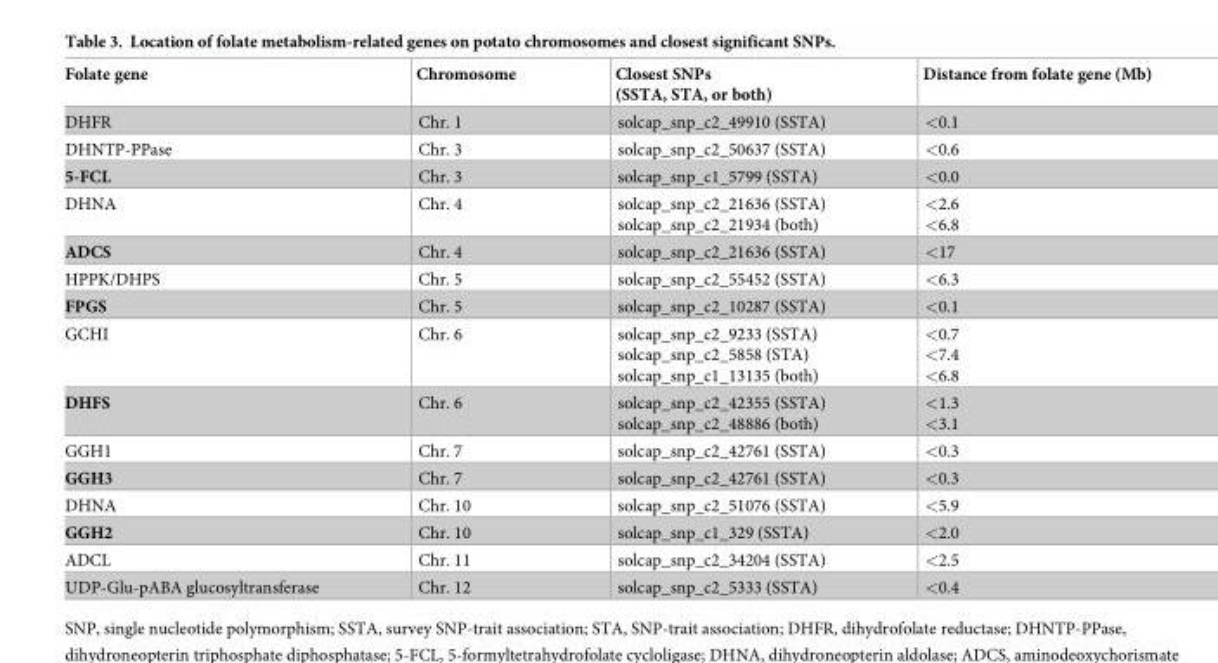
<table><thead><tr><td>Folate gene</td><td>Chromosome</td><td>Closest SNPs (SSTA, STA, or both)</td><td>Distance from folate gene (Mb)</td></tr></thead><tbody><tr><td>DHFR</td><td>Chr. 1</td><td>solcap_snp_c2_49910 (SSTA)</td><td>&lt;0.1</td></tr><tr><td>DHNTP-PPase</td><td>Chr. 3</td><td>solcap_snp_c2_50637 (SSTA)</td><td>&lt;0.6</td></tr><tr><td>5-FCL</td><td>Chr. 3</td><td>solcap_snp_c1_5799 (SSTA)</td><td>&lt;0.0</td></tr><tr><td>DHNA</td><td>Chr. 4</td><td>solcap_snp_c2_21636 (SSTA) solcap_snp_c2_21934 (both)</td><td>&lt;2.6 &lt;6.8</td></tr><tr><td>ADCS</td><td>Chr. 4</td><td>solcap_snp_c2_21636 (SSTA)</td><td>&lt;17</td></tr><tr><td>HPPK/DHPS</td><td>Chr. 5</td><td>solcap_snp_c2_55452 (SSTA)</td><td>&lt;6.3</td></tr><tr><td>FPGS</td><td>Chr. 5</td><td>solcap_snp_c2_10287 (SSTA)</td><td>&lt;0.1</td></tr><tr><td>GCHI</td><td>Chr. 6</td><td>solcap_snp_c2_9233 (SSTA) solcap_snp_c2_5858 (STA) solcap_snp_c1_13135 (both)</td><td>&lt;0.7 &lt;7.4 &lt;6.8</td></tr><tr><td>DHFS</td><td>Chr. 6</td><td>solcap_snp_c2_42355 (SSTA) solcap_snp_c2_48886 (both)</td><td>&lt;1.3 &lt;3.1</td></tr><tr><td>GGH1</td><td>Chr. 7</td><td>solcap_snp_c2_42761 (SSTA)</td><td>&lt;0.3</td></tr><tr><td>GGH3</td><td>Chr. 7</td><td>solcap_snp_c2_42761 (SSTA)</td><td>&lt;0.3</td></tr><tr><td>DHNA</td><td>Chr. 10</td><td>solcap_snp_c2_51076 (SSTA)</td><td>&lt;5.9</td></tr><tr><td>GGH2</td><td>Chr. 10</td><td>solcap_snp_c1_329 (SSTA)</td><td>&lt;2.0</td></tr><tr><td>ADCL</td><td>Chr. 11</td><td>solcap_snp_c2_34204 (SSTA)</td><td>&lt;2.5</td></tr><tr><td>UDP-Glu-pABA glucosyltransferase</td><td>Chr. 12</td><td>solcap_snp_c2_5333 (SSTA)</td><td>&lt;0.4</td></tr></tbody></table>